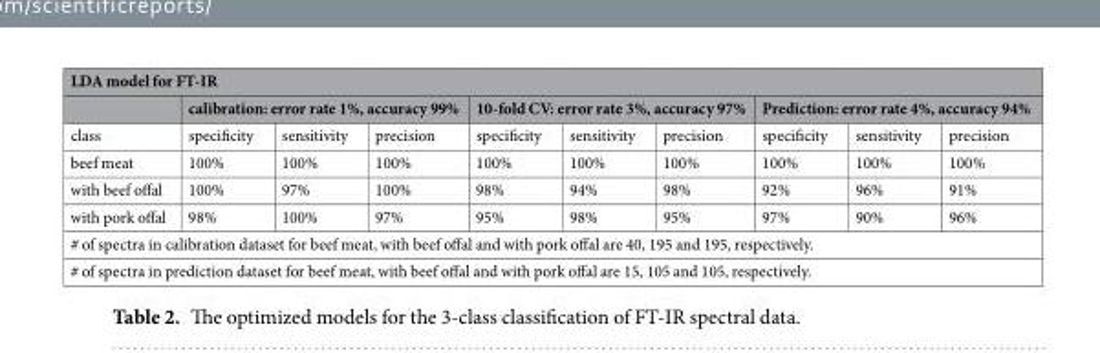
<table><thead><tr><td colspan="10">LDA model for FT-IR</td></tr><tr><td rowspan="2">class</td><td colspan="3">calibration: error rate 1%, accuracy 99%</td><td colspan="3">10-fold CV: error rate 3%, accuracy 97%</td><td colspan="3">Prediction: error rate 4%, accuracy 94%</td></tr><tr><td>specificity</td><td>sensitivity</td><td>precision</td><td>specificity</td><td>sensitivity</td><td>precision</td><td>specificity</td><td>sensitivity</td><td>precision</td></tr></thead><tbody><tr><td>beef meat</td><td>100%</td><td>100%</td><td>100%</td><td>100%</td><td>100%</td><td>100%</td><td>100%</td><td>100%</td><td>100%</td></tr><tr><td>with beef offal</td><td>100%</td><td>97%</td><td>100%</td><td>98%</td><td>94%</td><td>98%</td><td>92%</td><td>96%</td><td>91%</td></tr><tr><td>with pork offal</td><td>98%</td><td>100%</td><td>97%</td><td>95%</td><td>98%</td><td>95%</td><td>97%</td><td>90%</td><td>96%</td></tr><tr><td colspan="10"># of spectra in calibration dataset for beef meat, with beef offal and with pork offal are 40, 195 and 195, respectively.</td></tr><tr><td colspan="10"># of spectra in prediction dataset for beef meat, with beef offal and with pork offal are 15, 105 and 105, respectively.</td></tr></tbody></table>